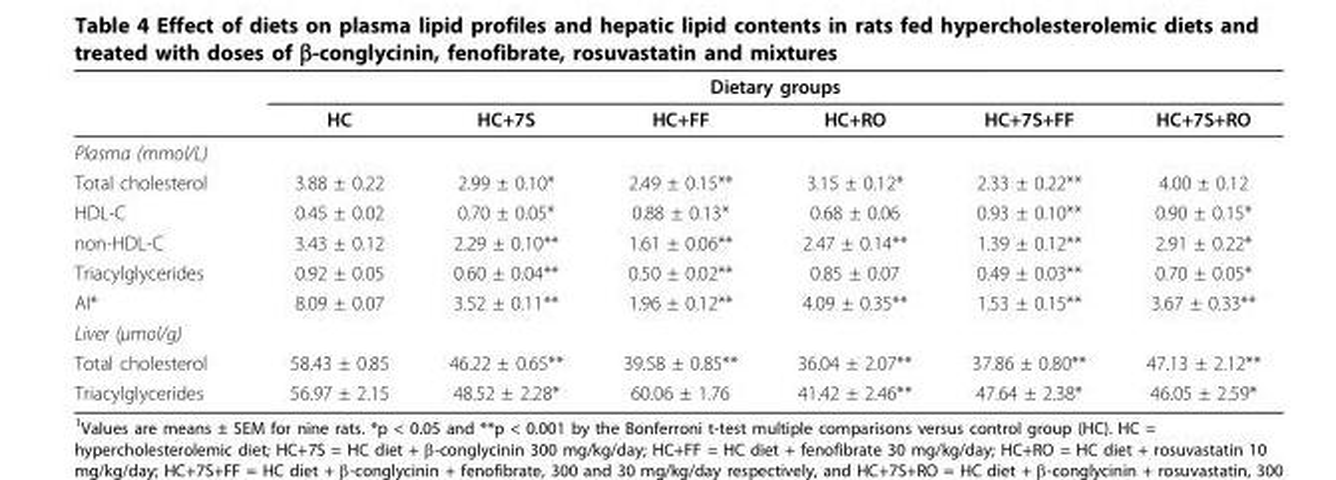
<table><thead><tr><td rowspan="2"></td><td colspan="6">Dietary groups</td></tr><tr><td>HC</td><td>HC+7S</td><td>HC+FF</td><td>HC+RO</td><td>HC+7S+FF</td><td>HC+7S+RO</td></tr></thead><tbody><tr><td colspan="7">Plasma (mmol/L)</td></tr><tr><td>Total cholesterol</td><td>3.88 ± 0.22</td><td>2.99 ± 0.10*</td><td>2.49 ± 0.15**</td><td>3.15 ± 0.12*</td><td>2.33 ± 0.22**</td><td>4.00 ± 0.12</td></tr><tr><td>HDL-C</td><td>0.45 ± 0.02</td><td>0.70 ± 0.05*</td><td>0.88 ± 0.13*</td><td>0.68 ± 0.06</td><td>0.93 ± 0.10**</td><td>0.90 ± 0.15*</td></tr><tr><td>non-HDL-C</td><td>3.43 ± 0.12</td><td>2.29 ± 0.10**</td><td>1.61 ± 0.06**</td><td>2.47 ± 0.14**</td><td>1.39 ± 0.12**</td><td>2.91 ± 0.22*</td></tr><tr><td>Triacylglycerides</td><td>0.92 ± 0.05</td><td>0.60 ± 0.04**</td><td>0.50 ± 0.02**</td><td>0.85 ± 0.07</td><td>0.49 ± 0.03**</td><td>0.70 ± 0.05*</td></tr><tr><td>AI*</td><td>8.09 ± 0.07</td><td>3.52 ± 0.11**</td><td>1.96 ± 0.12**</td><td>4.09 ± 0.35**</td><td>1.53 ± 0.15**</td><td>3.67 ± 0.33**</td></tr><tr><td colspan="7">Liver (μmol/g)</td></tr><tr><td>Total cholesterol</td><td>58.43 ± 0.85</td><td>46.22 ± 0.65**</td><td>39.58 ± 0.85**</td><td>36.04 ± 2.07**</td><td>37.86 ± 0.80**</td><td>47.13 ± 2.12**</td></tr><tr><td>Triacylglycerides</td><td>56.97 ± 2.15</td><td>48.52 ± 2.28*</td><td>60.06 ± 1.76</td><td>41.42 ± 2.46**</td><td>47.64 ± 2.38*</td><td>46.05 ± 2.59*</td></tr></tbody></table>